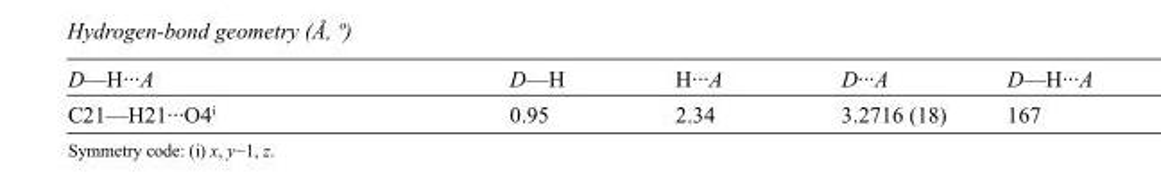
<table><tbody><tr><td>D—H···A</td><td>D—H</td><td>H···A</td><td>D···A</td><td>D—H···A</td></tr><tr><td>C21—H21···O4<sup>i</sup></td><td>0.95</td><td>2.34</td><td>3.2716 (18)</td><td>167</td></tr></tbody></table>